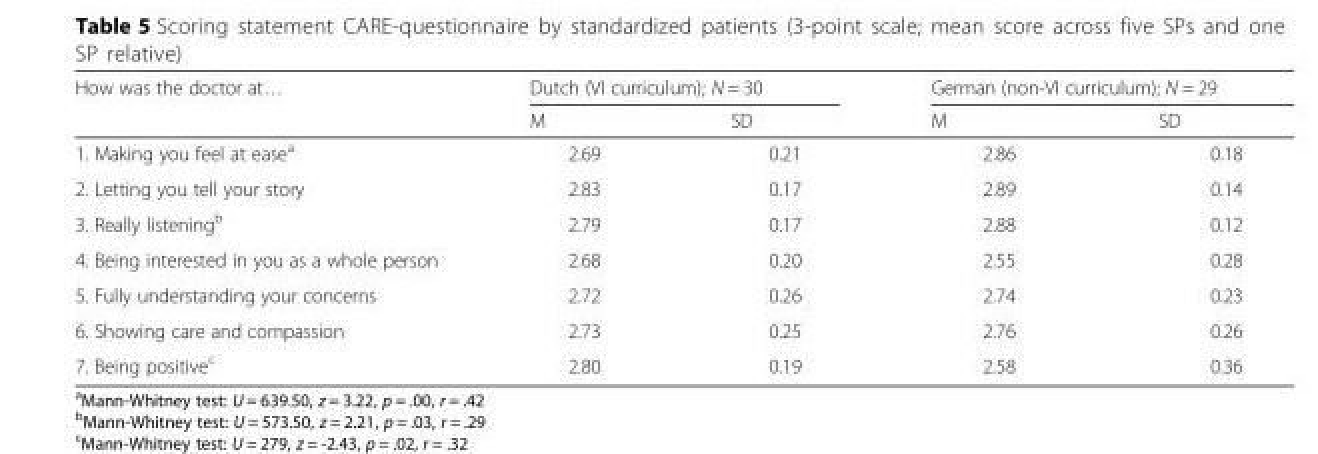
<table><thead><tr><td rowspan="2">How was the doctor at…</td><td colspan="2">Dutch (VI curriculum); N = 30</td><td colspan="2">German (non-VI curriculum); N = 29</td></tr><tr><td>M</td><td>SD</td><td>M</td><td>SD</td></tr></thead><tbody><tr><td>1. Making you feel at ease<sup>a</sup></td><td>2.69</td><td>0.21</td><td>2.86</td><td>0.18</td></tr><tr><td>2. Letting you tell your story</td><td>2.83</td><td>0.17</td><td>2.89</td><td>0.14</td></tr><tr><td>3. Really listening<sup>b</sup></td><td>2.79</td><td>0.17</td><td>2.88</td><td>0.12</td></tr><tr><td>4. Being interested in you as a whole person</td><td>2.68</td><td>0.20</td><td>2.55</td><td>0.28</td></tr><tr><td>5. Fully understanding your concerns</td><td>2.72</td><td>0.26</td><td>2.74</td><td>0.23</td></tr><tr><td>6. Showing care and compassion</td><td>2.73</td><td>0.25</td><td>2.76</td><td>0.26</td></tr><tr><td>7. Being positive<sup>c</sup></td><td>2.80</td><td>0.19</td><td>2.58</td><td>0.36</td></tr></tbody></table>